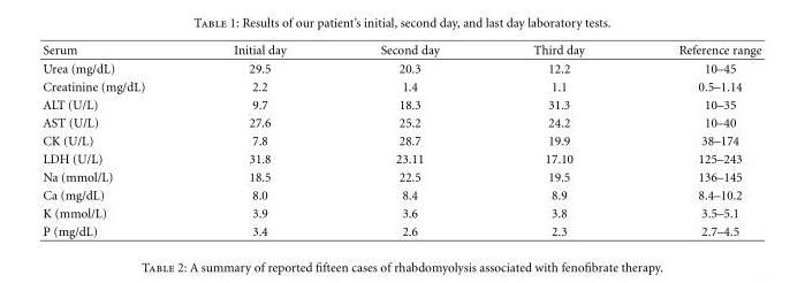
<table><thead><tr><td>Serum</td><td>Initial day</td><td>Second day</td><td>Third day</td><td>Reference range</td></tr></thead><tbody><tr><td>Urea (mg/dL)</td><td>29.5</td><td>20.3</td><td>12.2</td><td>10–45</td></tr><tr><td>Creatinine (mg/dL)</td><td>2.2</td><td>1.4</td><td>1.1</td><td>0.5–1.14</td></tr><tr><td>ALT (U/L)</td><td>9.7</td><td>18.3</td><td>31.3</td><td>10–35</td></tr><tr><td>AST (U/L)</td><td>27.6</td><td>25.2</td><td>24.2</td><td>10–40</td></tr><tr><td>CK (U/L)</td><td>7.8</td><td>28.7</td><td>19.9</td><td>38–174</td></tr><tr><td>LDH (U/L)</td><td>31.8</td><td>23.11</td><td>17.10</td><td>125–243</td></tr><tr><td>Na (mmol/L)</td><td>18.5</td><td>22.5</td><td>19.5</td><td>136–145</td></tr><tr><td>Ca (mg/dL)</td><td>8.0</td><td>8.4</td><td>8.9</td><td>8.4–10.2</td></tr><tr><td>K (mmol/L)</td><td>3.9</td><td>3.6</td><td>3.8</td><td>3.5–5.1</td></tr><tr><td>P (mg/dL)</td><td>3.4</td><td>2.6</td><td>2.3</td><td>2.7–4.5</td></tr></tbody></table>